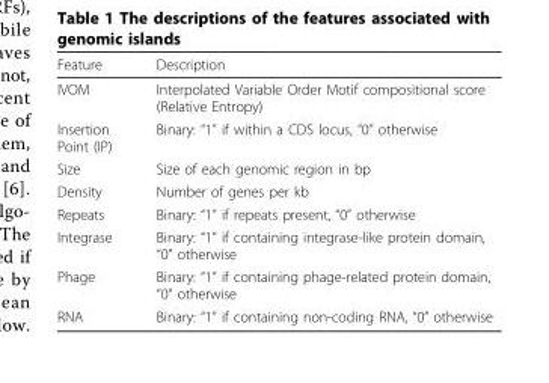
<table><thead><tr><td>Feature</td><td>Description</td></tr></thead><tbody><tr><td>IVOM</td><td>Interpolated Variable Order Motif compositional score (Relative Entropy)</td></tr><tr><td>Insertion Point (IP)</td><td>Binary: “1” if within a CDS locus, “0” otherwise</td></tr><tr><td>Size</td><td>Size of each genomic region in bp</td></tr><tr><td>Density</td><td>Number of genes per kb</td></tr><tr><td>Repeats</td><td>Binary: “1” if repeats present, “0” otherwise</td></tr><tr><td>Integrase</td><td>Binary: “1” if containing integrase-like protein domain, “0” otherwise</td></tr><tr><td>Phage</td><td>Binary: “1” if containing phage-related protein domain, “0” otherwise</td></tr><tr><td>RNA</td><td>Binary: “1” if containing non-coding RNA, “0” otherwise</td></tr></tbody></table>